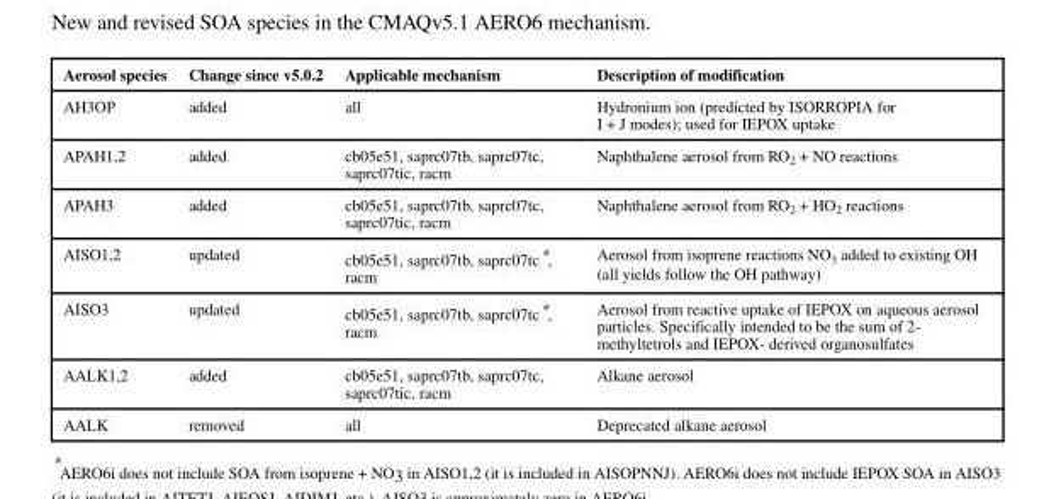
<table><thead><tr><td>Aerosol species</td><td>Change since v5.0.2</td><td>Applicable mechanism</td><td>Description of modification</td></tr></thead><tbody><tr><td>AH3OP</td><td>added</td><td>all</td><td>Hydronium ion (predicted by ISORROPIA for I + J modes); used for IEPOX uptake</td></tr><tr><td>APAH1,2</td><td>added</td><td>cb05e51, saprc07tb, saprc07tc, saprc07tic, racm</td><td>Naphthalene aerosol from RO<sub>2</sub> + NO reactions</td></tr><tr><td>APAH3</td><td>added</td><td>cb05e51, saprc07tb, saprc07tc, saprc07tic, racm</td><td>Naphthalene aerosol from RO<sub>2</sub> + HO<sub>2</sub> reactions</td></tr><tr><td>AISO1,2</td><td>updated</td><td>cb05e51, saprc07tb, saprc07tc*, racm</td><td>Aerosol from isoprene reactions NO<sub>3</sub> added to existing OH (all yields follow the OH pathway)</td></tr><tr><td>AISO3</td><td>updated</td><td>cb05e51, saprc07tb, saprc07tc*, racm</td><td>Aerosol from reactive uptake of IEPOX on aqueous aerosol particles. Specifically intended to be the sum of 2- methyltetrols and IEPOX- derived organosulfates</td></tr><tr><td>AALK1,2</td><td>added</td><td>cb05e51, saprc07tb, saprc07tc, saprc07tic, racm</td><td>Alkane aerosol</td></tr><tr><td>AALK</td><td>removed</td><td>all</td><td>Deprecated alkane aerosol</td></tr></tbody></table>